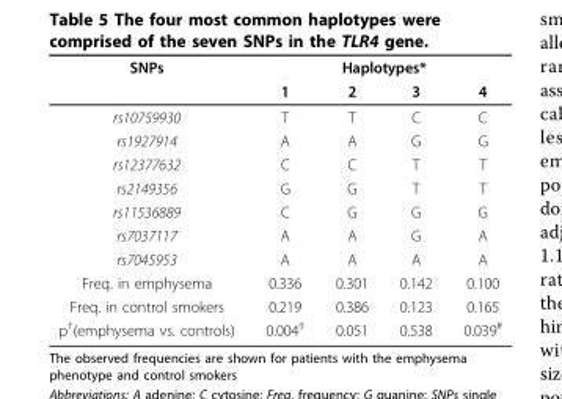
<table><thead><tr><td rowspan="2">SNPs</td><td colspan="4">Haplotypes*</td></tr><tr><td>1</td><td>2</td><td>3</td><td>4</td></tr></thead><tbody><tr><td>rs10759930</td><td>T</td><td>T</td><td>C</td><td>C</td></tr><tr><td>rs1927914</td><td>A</td><td>A</td><td>G</td><td>G</td></tr><tr><td>rs12377632</td><td>C</td><td>C</td><td>T</td><td>T</td></tr><tr><td>rs2149356</td><td>G</td><td>G</td><td>T</td><td>T</td></tr><tr><td>rs11536889</td><td>C</td><td>G</td><td>G</td><td>G</td></tr><tr><td>rs7037117</td><td>A</td><td>A</td><td>G</td><td>A</td></tr><tr><td>rs7045953</td><td>A</td><td>A</td><td>A</td><td>A</td></tr><tr><td>Freq. in emphysema</td><td>0.336</td><td>0.301</td><td>0.142</td><td>0.100</td></tr><tr><td>Freq. in control smokers</td><td>0.219</td><td>0.386</td><td>0.123</td><td>0.165</td></tr><tr><td>p<sup>†</sup>(emphysema vs. controls)</td><td>0.004<sup>‡</sup></td><td>0.051</td><td>0.538</td><td>0.039<sup>#</sup></td></tr></tbody></table>